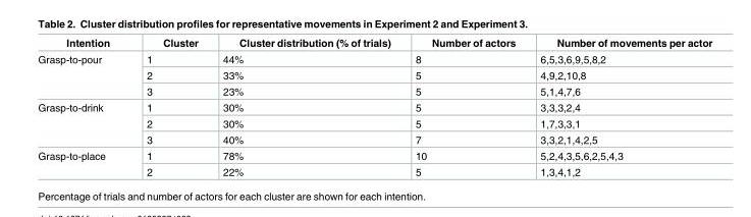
<table><thead><tr><td>Intention</td><td>Cluster</td><td>Cluster distribution (% of trials)</td><td>Number of actors</td><td>Number of movements per actor</td></tr></thead><tbody><tr><td rowspan="3">Grasp-to-pour</td><td>1</td><td>44%</td><td>8</td><td>6,5,3,6,9,5,8,2</td></tr><tr><td>2</td><td>33%</td><td>5</td><td>4,9,2,10,8</td></tr><tr><td>3</td><td>23%</td><td>5</td><td>5,1,4,7,6</td></tr><tr><td rowspan="3">Grasp-to-drink</td><td>1</td><td>30%</td><td>5</td><td>3,3,3,2,4</td></tr><tr><td>2</td><td>30%</td><td>5</td><td>1,7,3,3,1</td></tr><tr><td>3</td><td>40%</td><td>7</td><td>3,3,2,1,4,2,5</td></tr><tr><td rowspan="2">Grasp-to-place</td><td>1</td><td>78%</td><td>10</td><td>5,2,4,3,5,6,2,5,4,3</td></tr><tr><td>2</td><td>22%</td><td>5</td><td>1,3,4,1,2</td></tr></tbody></table>